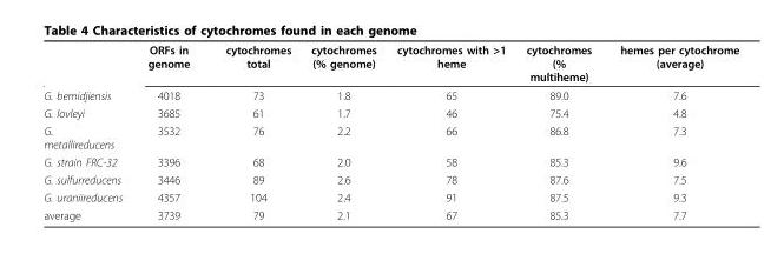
<table><thead><tr><td></td><td>ORFs in genome</td><td>cytochromes total</td><td>cytochromes (% genome)</td><td>cytochromes with &gt;1 heme</td><td>cytochromes (% multiheme)</td><td>hemes per cytochrome (average)</td></tr></thead><tbody><tr><td>G. bemidjiensis</td><td>4018</td><td>73</td><td>1.8</td><td>65</td><td>89.0</td><td>7.6</td></tr><tr><td>G. lovleyi</td><td>3685</td><td>61</td><td>1.7</td><td>46</td><td>75.4</td><td>4.8</td></tr><tr><td>G. metallireducens</td><td>3532</td><td>76</td><td>2.2</td><td>66</td><td>86.8</td><td>7.3</td></tr><tr><td>G. strain FRC-32</td><td>3396</td><td>68</td><td>2.0</td><td>58</td><td>85.3</td><td>9.6</td></tr><tr><td>G. sulfurreducens</td><td>3446</td><td>89</td><td>2.6</td><td>78</td><td>87.6</td><td>7.5</td></tr><tr><td>G. uraniireducens</td><td>4357</td><td>104</td><td>2.4</td><td>91</td><td>87.5</td><td>9.3</td></tr><tr><td>average</td><td>3739</td><td>79</td><td>2.1</td><td>67</td><td>85.3</td><td>7.7</td></tr></tbody></table>